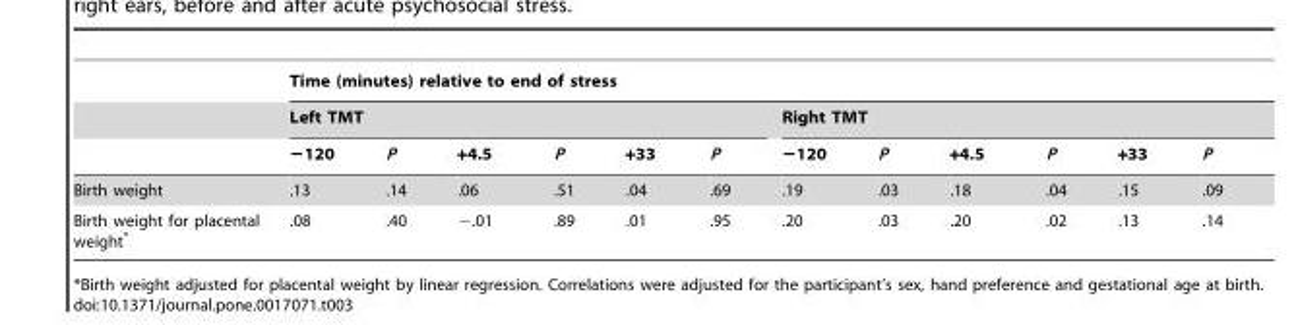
<table><thead><tr><td rowspan="3"></td><td colspan="12">Time (minutes) relative to end of stress</td></tr><tr><td colspan="6">Left TMT</td><td colspan="6">Right TMT</td></tr><tr><td>−120</td><td>P</td><td>+4.5</td><td>P</td><td>+33</td><td>P</td><td>−120</td><td>P</td><td>+4.5</td><td>P</td><td>+33</td><td>P</td></tr></thead><tbody><tr><td>Birth weight</td><td>.13</td><td>.14</td><td>.06</td><td>.51</td><td>.04</td><td>.69</td><td>.19</td><td>.03</td><td>.18</td><td>.04</td><td>.15</td><td>.09</td></tr><tr><td>Birth weight for placental weight*</td><td>.08</td><td>.40</td><td>−.01</td><td>.89</td><td>.01</td><td>.95</td><td>.20</td><td>.03</td><td>.20</td><td>.02</td><td>.13</td><td>.14</td></tr></tbody></table>